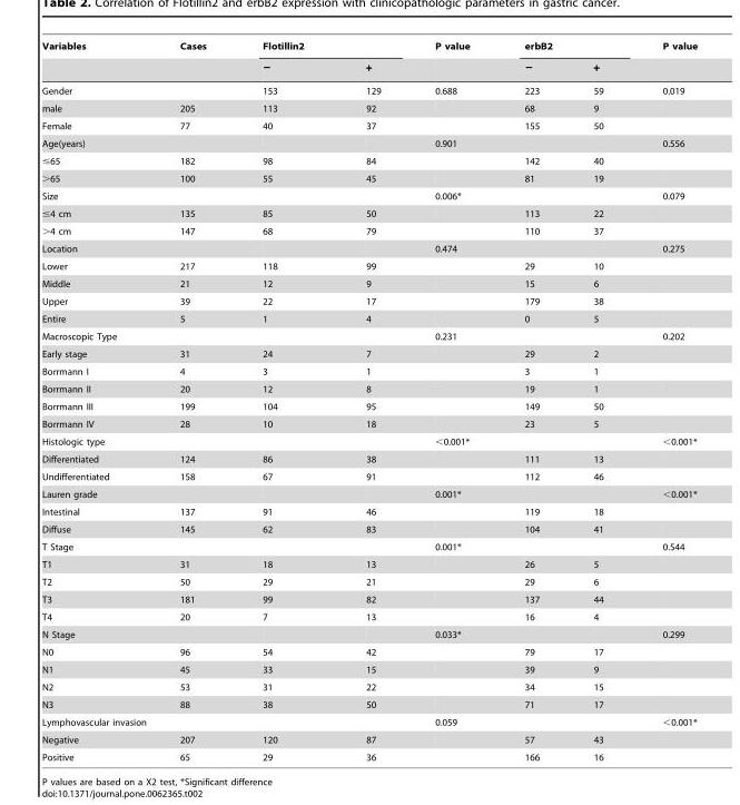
<table><thead><tr><td rowspan="2">Variables</td><td rowspan="2">Cases</td><td rowspan="2">Flotillin2 −</td><td rowspan="2">+</td><td rowspan="2">P value</td><td rowspan="2">erbB2 −</td><td rowspan="2">+</td><td rowspan="2">P value</td></tr><tr></tr></thead><tbody><tr><td>Gender</td><td></td><td>153</td><td>129</td><td>0.688</td><td>223</td><td>59</td><td>0.019</td></tr><tr><td>male</td><td>205</td><td>113</td><td>92</td><td></td><td>68</td><td>9</td><td></td></tr><tr><td>Female</td><td>77</td><td>40</td><td>37</td><td></td><td>155</td><td>50</td><td></td></tr><tr><td>Age(years)</td><td></td><td></td><td></td><td>0.901</td><td></td><td></td><td>0.556</td></tr><tr><td>≤65</td><td>182</td><td>98</td><td>84</td><td></td><td>142</td><td>40</td><td></td></tr><tr><td>&gt;65</td><td>100</td><td>55</td><td>45</td><td></td><td>81</td><td>19</td><td></td></tr><tr><td>Size</td><td></td><td></td><td></td><td>0.006*</td><td></td><td></td><td>0.079</td></tr><tr><td>≤4 cm</td><td>135</td><td>85</td><td>50</td><td></td><td>113</td><td>22</td><td></td></tr><tr><td>&gt;4 cm</td><td>147</td><td>68</td><td>79</td><td></td><td>110</td><td>37</td><td></td></tr><tr><td>Location</td><td></td><td></td><td></td><td>0.474</td><td></td><td></td><td>0.275</td></tr><tr><td>Lower</td><td>217</td><td>118</td><td>99</td><td></td><td>29</td><td>10</td><td></td></tr><tr><td>Middle</td><td>21</td><td>12</td><td>9</td><td></td><td>15</td><td>6</td><td></td></tr><tr><td>Upper</td><td>39</td><td>22</td><td>17</td><td></td><td>179</td><td>38</td><td></td></tr><tr><td>Entire</td><td>5</td><td>1</td><td>4</td><td></td><td>0</td><td>5</td><td></td></tr><tr><td>Macroscopic Type</td><td></td><td></td><td></td><td>0.231</td><td></td><td></td><td>0.202</td></tr><tr><td>Early stage</td><td>31</td><td>24</td><td>7</td><td></td><td>29</td><td>2</td><td></td></tr><tr><td>Borrmann I</td><td>4</td><td>3</td><td>1</td><td></td><td>3</td><td>1</td><td></td></tr><tr><td>Borrmann II</td><td>20</td><td>12</td><td>8</td><td></td><td>19</td><td>1</td><td></td></tr><tr><td>Borrmann III</td><td>199</td><td>104</td><td>95</td><td></td><td>149</td><td>50</td><td></td></tr><tr><td>Borrmann IV</td><td>28</td><td>10</td><td>18</td><td></td><td>23</td><td>5</td><td></td></tr><tr><td>Histologic type</td><td></td><td></td><td></td><td>&lt;0.001*</td><td></td><td></td><td>&lt;0.001*</td></tr><tr><td>Differentiated</td><td>124</td><td>86</td><td>38</td><td></td><td>111</td><td>13</td><td></td></tr><tr><td>Undifferentiated</td><td>158</td><td>67</td><td>91</td><td></td><td>112</td><td>46</td><td></td></tr><tr><td>Lauren grade</td><td></td><td></td><td></td><td>0.001*</td><td></td><td></td><td>&lt;0.001*</td></tr><tr><td>Intestinal</td><td>137</td><td>91</td><td>46</td><td></td><td>119</td><td>18</td><td></td></tr><tr><td>Diffuse</td><td>145</td><td>62</td><td>83</td><td></td><td>104</td><td>41</td><td></td></tr><tr><td>T Stage</td><td></td><td></td><td></td><td>0.001*</td><td></td><td></td><td>0.544</td></tr><tr><td>T1</td><td>31</td><td>18</td><td>13</td><td></td><td>26</td><td>5</td><td></td></tr><tr><td>T2</td><td>50</td><td>29</td><td>21</td><td></td><td>29</td><td>6</td><td></td></tr><tr><td>T3</td><td>181</td><td>99</td><td>82</td><td></td><td>137</td><td>44</td><td></td></tr><tr><td>T4</td><td>20</td><td>7</td><td>13</td><td></td><td>16</td><td>4</td><td></td></tr><tr><td>N Stage</td><td></td><td></td><td></td><td>0.033*</td><td></td><td></td><td>0.299</td></tr><tr><td>N0</td><td>96</td><td>54</td><td>42</td><td></td><td>79</td><td>17</td><td></td></tr><tr><td>N1</td><td>45</td><td>33</td><td>15</td><td></td><td>39</td><td>9</td><td></td></tr><tr><td>N2</td><td>53</td><td>31</td><td>22</td><td></td><td>34</td><td>15</td><td></td></tr><tr><td>N3</td><td>88</td><td>38</td><td>50</td><td></td><td>71</td><td>17</td><td></td></tr><tr><td>Lymphovascular invasion</td><td></td><td></td><td></td><td>0.059</td><td></td><td></td><td>&lt;0.001*</td></tr><tr><td>Negative</td><td>207</td><td>120</td><td>87</td><td></td><td>57</td><td>43</td><td></td></tr><tr><td>Positive</td><td>65</td><td>29</td><td>36</td><td></td><td>166</td><td>16</td><td></td></tr></tbody></table>